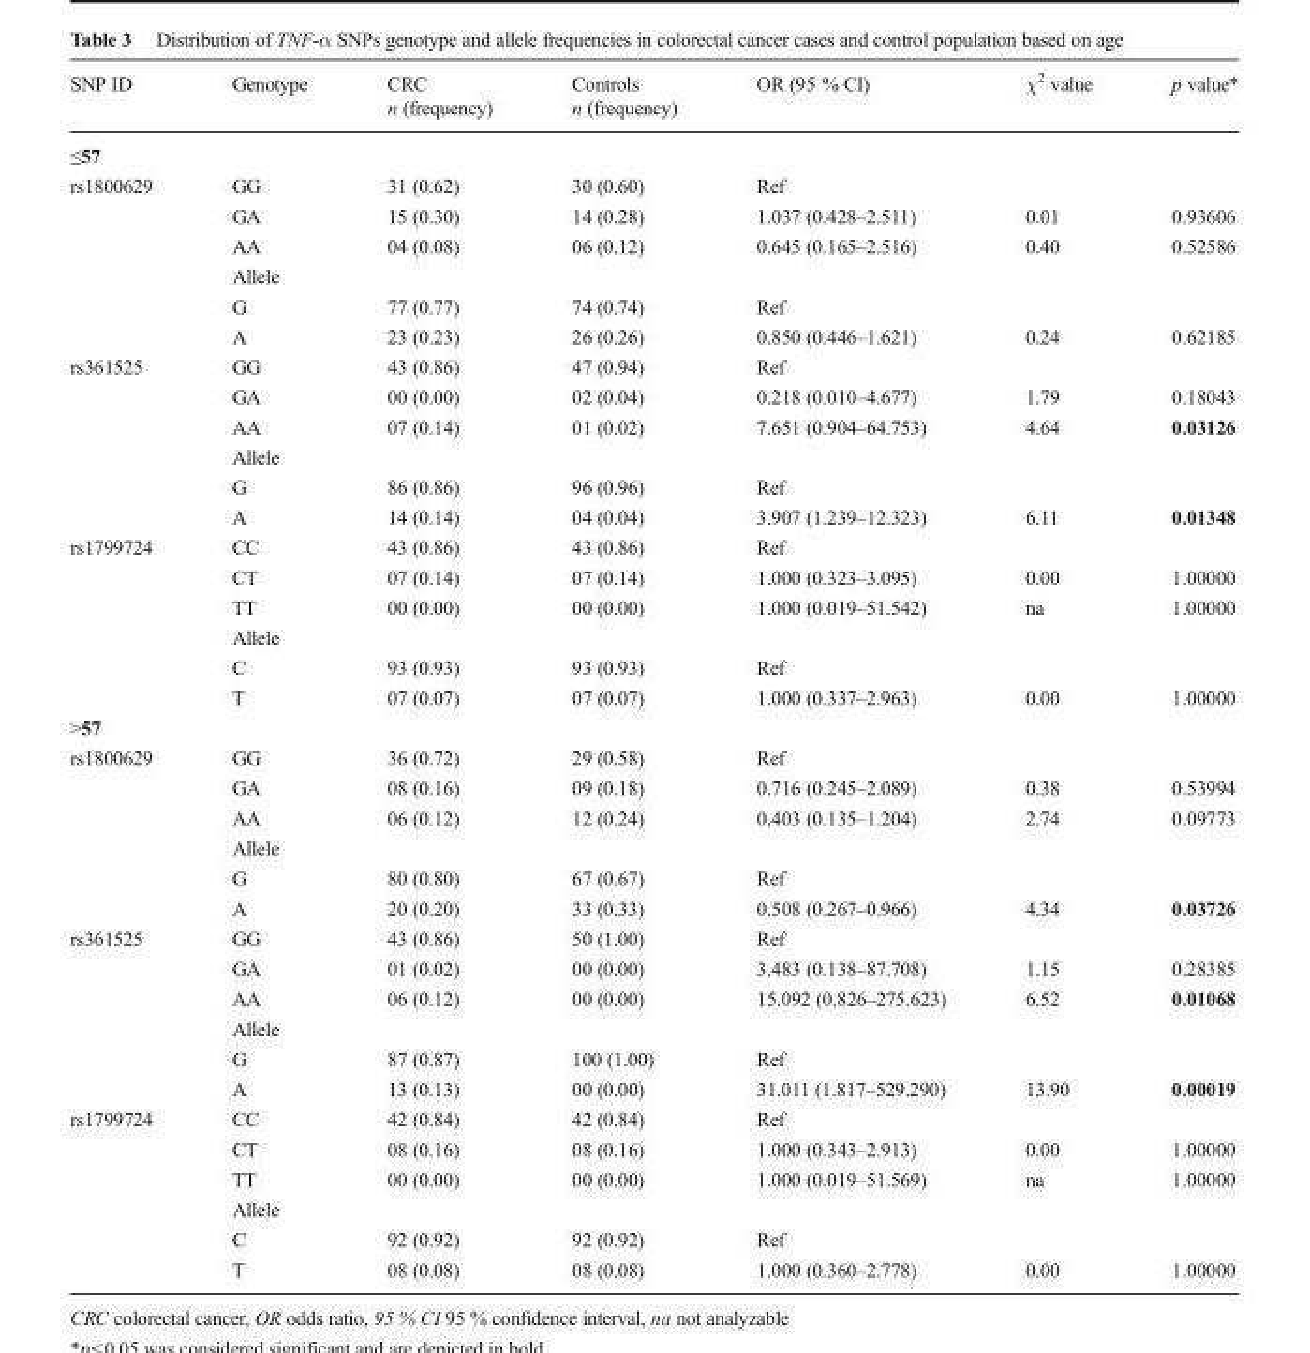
<table><thead><tr><td>SNP ID</td><td>Genotype</td><td>CRC n (frequency)</td><td>Controls n (frequency)</td><td>OR (95 % CI)</td><td>χ<sup>2</sup> value</td><td>p value*</td></tr></thead><tbody><tr><td colspan="7">≤57</td></tr><tr><td rowspan="6">rs1800629</td><td>GG</td><td>31 (0.62)</td><td>30 (0.60)</td><td>Ref</td><td></td><td></td></tr><tr><td>GA</td><td>15 (0.30)</td><td>14 (0.28)</td><td>1.037 (0.428–2.511)</td><td>0.01</td><td>0.93606</td></tr><tr><td>AA</td><td>04 (0.08)</td><td>06 (0.12)</td><td>0.645 (0.165–2.516)</td><td>0.40</td><td>0.52586</td></tr><tr><td colspan="6">Allele</td></tr><tr><td>G</td><td>77 (0.77)</td><td>74 (0.74)</td><td>Ref</td><td></td><td></td></tr><tr><td>A</td><td>23 (0.23)</td><td>26 (0.26)</td><td>0.850 (0.446–1.621)</td><td>0.24</td><td>0.62185</td></tr><tr><td rowspan="6">rs361525</td><td>GG</td><td>43 (0.86)</td><td>47 (0.94)</td><td>Ref</td><td></td><td></td></tr><tr><td>GA</td><td>00 (0.00)</td><td>02 (0.04)</td><td>0.218 (0.010–4.677)</td><td>1.79</td><td>0.18043</td></tr><tr><td>AA</td><td>07 (0.14)</td><td>01 (0.02)</td><td>7.651 (0.904–64.753)</td><td>4.64</td><td>0.03126</td></tr><tr><td colspan="6">Allele</td></tr><tr><td>G</td><td>86 (0.86)</td><td>96 (0.96)</td><td>Ref</td><td></td><td></td></tr><tr><td>A</td><td>14 (0.14)</td><td>04 (0.04)</td><td>3.907 (1.239–12.323)</td><td>6.11</td><td>0.01348</td></tr><tr><td rowspan="6">rs1799724</td><td>CC</td><td>43 (0.86)</td><td>43 (0.86)</td><td>Ref</td><td></td><td></td></tr><tr><td>CT</td><td>07 (0.14)</td><td>07 (0.14)</td><td>1.000 (0.323–3.095)</td><td>0.00</td><td>1.00000</td></tr><tr><td>TT</td><td>00 (0.00)</td><td>00 (0.00)</td><td>1.000 (0.019–51.542)</td><td>na</td><td>1.00000</td></tr><tr><td colspan="6">Allele</td></tr><tr><td>C</td><td>93 (0.93)</td><td>93 (0.93)</td><td>Ref</td><td></td><td></td></tr><tr><td>T</td><td>07 (0.07)</td><td>07 (0.07)</td><td>1.000 (0.337–2.963)</td><td>0.00</td><td>1.00000</td></tr><tr><td colspan="7">&gt;57</td></tr><tr><td rowspan="6">rs1800629</td><td>GG</td><td>36 (0.72)</td><td>29 (0.58)</td><td>Ref</td><td></td><td></td></tr><tr><td>GA</td><td>08 (0.16)</td><td>09 (0.18)</td><td>0.716 (0.245–2.089)</td><td>0.38</td><td>0.53994</td></tr><tr><td>AA</td><td>06 (0.12)</td><td>12 (0.24)</td><td>0.403 (0.135–1.204)</td><td>2.74</td><td>0.09773</td></tr><tr><td colspan="6">Allele</td></tr><tr><td>G</td><td>80 (0.80)</td><td>67 (0.67)</td><td>Ref</td><td></td><td></td></tr><tr><td>A</td><td>20 (0.20)</td><td>33 (0.33)</td><td>0.508 (0.267–0.966)</td><td>4.34</td><td>0.03726</td></tr><tr><td rowspan="6">rs361525</td><td>GG</td><td>43 (0.86)</td><td>50 (1.00)</td><td>Ref</td><td></td><td></td></tr><tr><td>GA</td><td>01 (0.02)</td><td>00 (0.00)</td><td>3.483 (0.138–87.708)</td><td>1.15</td><td>0.28385</td></tr><tr><td>AA</td><td>06 (0.12)</td><td>00 (0.00)</td><td>15.092 (0.826–275.623)</td><td>6.52</td><td>0.01068</td></tr><tr><td colspan="6">Allele</td></tr><tr><td>G</td><td>87 (0.87)</td><td>100 (1.00)</td><td>Ref</td><td></td><td></td></tr><tr><td>A</td><td>13 (0.13)</td><td>00 (0.00)</td><td>31.011 (1.817–529.290)</td><td>13.90</td><td>0.00019</td></tr><tr><td rowspan="6">rs1799724</td><td>CC</td><td>42 (0.84)</td><td>42 (0.84)</td><td>Ref</td><td></td><td></td></tr><tr><td>CT</td><td>08 (0.16)</td><td>08 (0.16)</td><td>1.000 (0.343–2.913)</td><td>0.00</td><td>1.00000</td></tr><tr><td>TT</td><td>00 (0.00)</td><td>00 (0.00)</td><td>1.000 (0.019–51.569)</td><td>na</td><td>1.00000</td></tr><tr><td colspan="6">Allele</td></tr><tr><td>C</td><td>92 (0.92)</td><td>92 (0.92)</td><td>Ref</td><td></td><td></td></tr><tr><td>T</td><td>08 (0.08)</td><td>08 (0.08)</td><td>1.000 (0.360–2.778)</td><td>0.00</td><td>1.00000</td></tr></tbody></table>